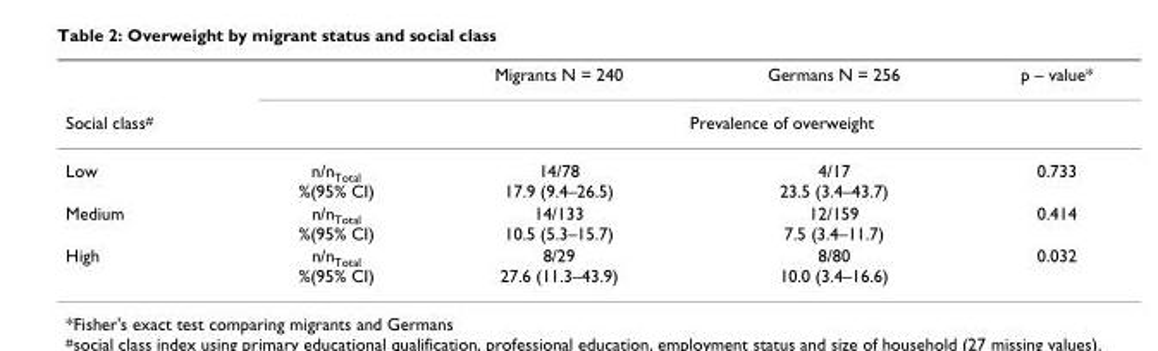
<table><thead><tr><td rowspan="2">Social class<sup>#</sup></td><td rowspan="2"></td><td>Migrants N = 240</td><td>Germans N = 256</td><td>p – value*</td></tr><tr><td colspan="3">Prevalence of overweight</td></tr></thead><tbody><tr><td>Low</td><td>n/n<sub>Total</sub> %(95% CI)</td><td>14/78 17.9 (9.4–26.5)</td><td>4/17 23.5 (3.4–43.7)</td><td>0.733</td></tr><tr><td>Medium</td><td>n/n<sub>Total</sub> %(95% CI)</td><td>14/133 10.5 (5.3–15.7)</td><td>12/159 7.5 (3.4–11.7)</td><td>0.414</td></tr><tr><td>High</td><td>n/n<sub>Total</sub> %(95% CI)</td><td>8/29 27.6 (11.3–43.9)</td><td>8/80 10.0 (3.4–16.6)</td><td>0.032</td></tr></tbody></table>